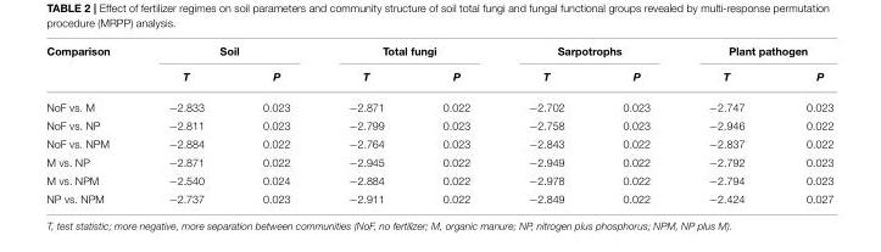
<table><thead><tr><td rowspan="2">Comparison</td><td colspan="2">Soil</td><td colspan="2">Total fungi</td><td colspan="2">Sarpotrophs</td><td colspan="2">Plant pathogen</td></tr><tr><td>T</td><td>P</td><td>T</td><td>P</td><td>T</td><td>P</td><td>T</td><td>P</td></tr></thead><tbody><tr><td>NoF vs. M</td><td>−2.833</td><td>0.023</td><td>−2.871</td><td>0.022</td><td>−2.702</td><td>0.023</td><td>−2.747</td><td>0.023</td></tr><tr><td>NoF vs. NP</td><td>−2.811</td><td>0.023</td><td>−2.799</td><td>0.023</td><td>−2.758</td><td>0.023</td><td>−2.946</td><td>0.022</td></tr><tr><td>NoF vs. NPM</td><td>−2.884</td><td>0.022</td><td>−2.764</td><td>0.023</td><td>−2.843</td><td>0.022</td><td>−2.837</td><td>0.022</td></tr><tr><td>M vs. NP</td><td>−2.871</td><td>0.022</td><td>−2.945</td><td>0.022</td><td>−2.949</td><td>0.022</td><td>−2.792</td><td>0.023</td></tr><tr><td>M vs. NPM</td><td>−2.540</td><td>0.024</td><td>−2.884</td><td>0.022</td><td>−2.978</td><td>0.022</td><td>−2.794</td><td>0.023</td></tr><tr><td>NP vs. NPM</td><td>−2.737</td><td>0.023</td><td>−2.911</td><td>0.022</td><td>−2.849</td><td>0.022</td><td>−2.424</td><td>0.027</td></tr></tbody></table>